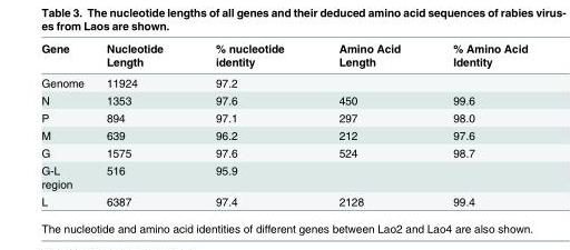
<table><thead><tr><td>Gene</td><td>Nucleotide Length</td><td>% nucleotide identity</td><td>Amino Acid Length</td><td>% Amino Acid Identity</td></tr></thead><tbody><tr><td>Genome</td><td>11924</td><td>97.2</td><td></td><td></td></tr><tr><td>N</td><td>1353</td><td>97.6</td><td>450</td><td>99.6</td></tr><tr><td>P</td><td>894</td><td>97.1</td><td>297</td><td>98.0</td></tr><tr><td>M</td><td>639</td><td>96.2</td><td>212</td><td>97.6</td></tr><tr><td>G</td><td>1575</td><td>97.6</td><td>524</td><td>98.7</td></tr><tr><td>G-L region</td><td>516</td><td>95.9</td><td></td><td></td></tr><tr><td>L</td><td>6387</td><td>97.4</td><td>2128</td><td>99.4</td></tr></tbody></table>